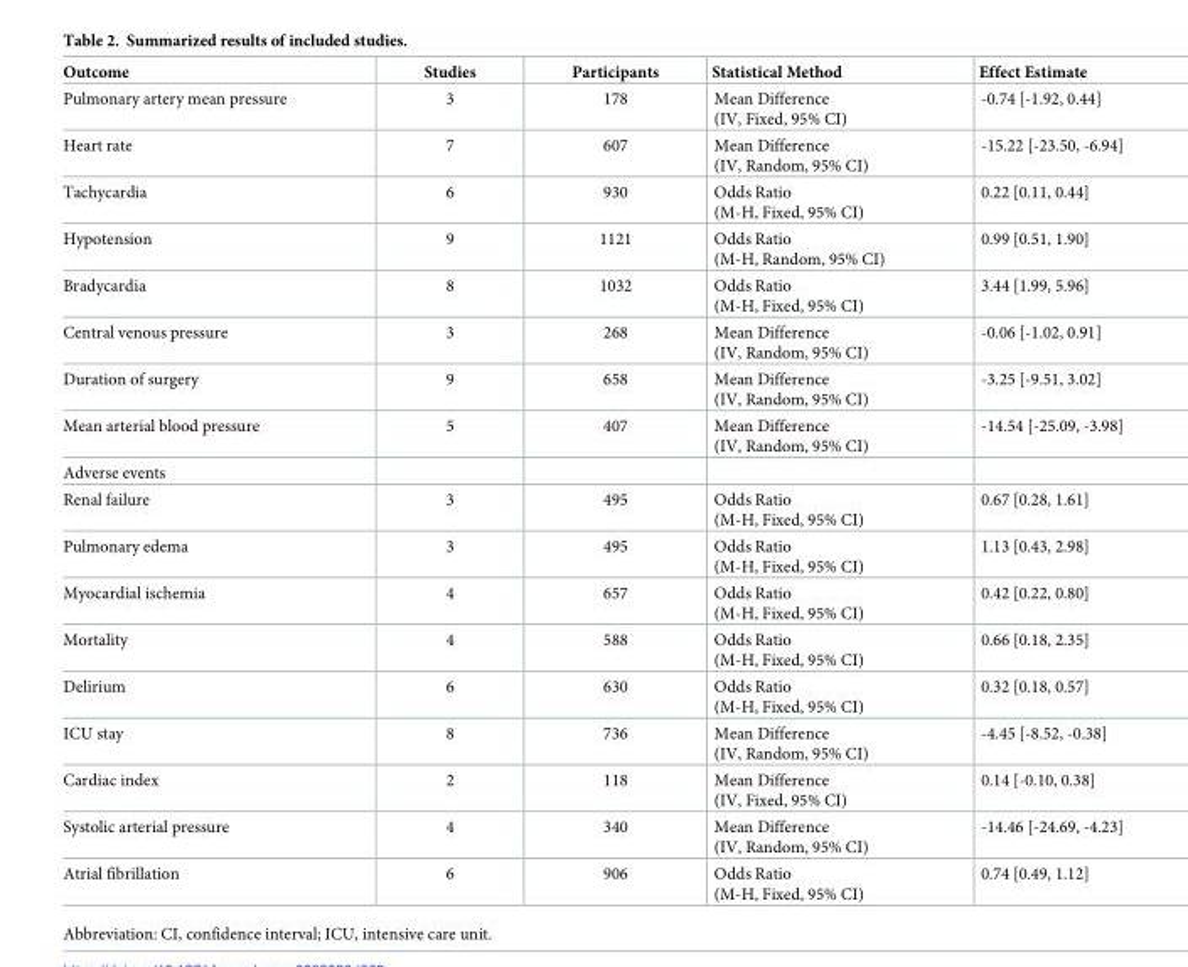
<table><thead><tr><td>Outcome</td><td>Studies</td><td>Participants</td><td>Statistical Method</td><td>Effect Estimate</td></tr></thead><tbody><tr><td>Pulmonary artery mean pressure</td><td>3</td><td>178</td><td>Mean Difference (IV, Fixed, 95% CI)</td><td>-0.74 [-1.92, 0.44]</td></tr><tr><td>Heart rate</td><td>7</td><td>607</td><td>Mean Difference (IV, Random, 95% CI)</td><td>-15.22 [-23.50, -6.94]</td></tr><tr><td>Tachycardia</td><td>6</td><td>930</td><td>Odds Ratio (M-H, Fixed, 95% CI)</td><td>0.22 [0.11, 0.44]</td></tr><tr><td>Hypotension</td><td>9</td><td>1121</td><td>Odds Ratio (M-H, Random, 95% CI)</td><td>0.99 [0.51, 1.90]</td></tr><tr><td>Bradycardia</td><td>8</td><td>1032</td><td>Odds Ratio (M-H, Fixed, 95% CI)</td><td>3.44 [1.99, 5.96]</td></tr><tr><td>Central venous pressure</td><td>3</td><td>268</td><td>Mean Difference (IV, Random, 95% CI)</td><td>-0.06 [-1.02, 0.91]</td></tr><tr><td>Duration of surgery</td><td>9</td><td>658</td><td>Mean Difference (IV, Random, 95% CI)</td><td>-3.25 [-9.51, 3.02]</td></tr><tr><td>Mean arterial blood pressure</td><td>5</td><td>407</td><td>Mean Difference (IV, Random, 95% CI)</td><td>-14.54 [-25.09, -3.98]</td></tr><tr><td colspan="5">Adverse events</td></tr><tr><td>Renal failure</td><td>3</td><td>495</td><td>Odds Ratio (M-H, Fixed, 95% CI)</td><td>0.67 [0.28, 1.61]</td></tr><tr><td>Pulmonary edema</td><td>3</td><td>495</td><td>Odds Ratio (M-H, Fixed, 95% CI)</td><td>1.13 [0.43, 2.98]</td></tr><tr><td>Myocardial ischemia</td><td>4</td><td>657</td><td>Odds Ratio (M-H, Fixed, 95% CI)</td><td>0.42 [0.22, 0.80]</td></tr><tr><td>Mortality</td><td>4</td><td>588</td><td>Odds Ratio (M-H, Fixed, 95% CI)</td><td>0.66 [0.18, 2.35]</td></tr><tr><td>Delirium</td><td>6</td><td>630</td><td>Odds Ratio (M-H, Fixed, 95% CI)</td><td>0.32 [0.18, 0.57]</td></tr><tr><td>ICU stay</td><td>8</td><td>736</td><td>Mean Difference (IV, Random, 95% CI)</td><td>-4.45 [-8.52, -0.38]</td></tr><tr><td>Cardiac index</td><td>2</td><td>118</td><td>Mean Difference (IV, Fixed, 95% CI)</td><td>0.14 [-0.10, 0.38]</td></tr><tr><td>Systolic arterial pressure</td><td>4</td><td>340</td><td>Mean Difference (IV, Random, 95% CI)</td><td>-14.46 [-24.69, -4.23]</td></tr><tr><td>Atrial fibrillation</td><td>6</td><td>906</td><td>Odds Ratio (M-H, Fixed, 95% CI)</td><td>0.74 [0.49, 1.12]</td></tr></tbody></table>